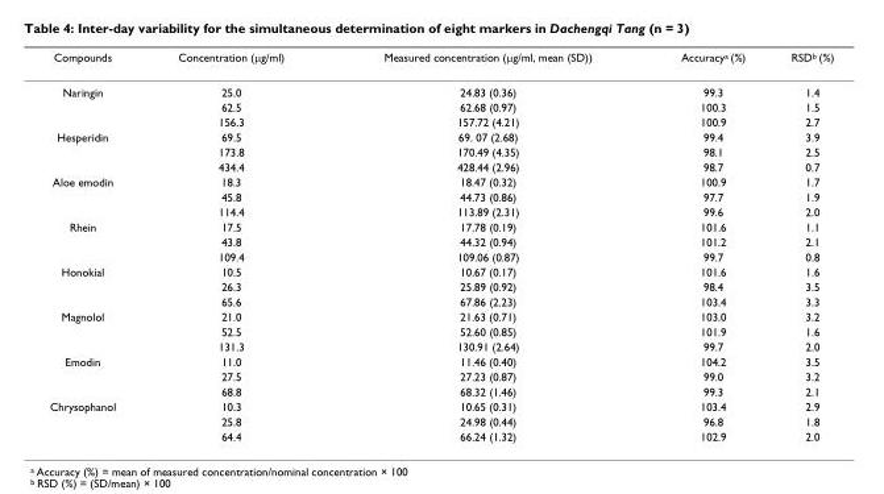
<table><thead><tr><td>Compounds</td><td>Concentration (µg/ml)</td><td>Measured concentration (µg/ml, mean (SD))</td><td>Accuracy<sup>a</sup> (%)</td><td>RSD<sup>b</sup> (%)</td></tr></thead><tbody><tr><td rowspan="3">Naringin</td><td>25.0</td><td>24.83 (0.36)</td><td>99.3</td><td>1.4</td></tr><tr><td>62.5</td><td>62.68 (0.97)</td><td>100.3</td><td>1.5</td></tr><tr><td>156.3</td><td>157.72 (4.21)</td><td>100.9</td><td>2.7</td></tr><tr><td rowspan="3">Hesperidin</td><td>69.5</td><td>69. 07 (2.68)</td><td>99.4</td><td>3.9</td></tr><tr><td>173.8</td><td>170.49 (4.35)</td><td>98.1</td><td>2.5</td></tr><tr><td>434.4</td><td>428.44 (2.96)</td><td>98.7</td><td>0.7</td></tr><tr><td rowspan="3">Aloe emodin</td><td>18.3</td><td>18.47 (0.32)</td><td>100.9</td><td>1.7</td></tr><tr><td>45.8</td><td>44.73 (0.86)</td><td>97.7</td><td>1.9</td></tr><tr><td>114.4</td><td>113.89 (2.31)</td><td>99.6</td><td>2.0</td></tr><tr><td rowspan="3">Rhein</td><td>17.5</td><td>17.78 (0.19)</td><td>101.6</td><td>1.1</td></tr><tr><td>43.8</td><td>44.32 (0.94)</td><td>101.2</td><td>2.1</td></tr><tr><td>109.4</td><td>109.06 (0.87)</td><td>99.7</td><td>0.8</td></tr><tr><td rowspan="3">Honokial</td><td>10.5</td><td>10.67 (0.17)</td><td>101.6</td><td>1.6</td></tr><tr><td>26.3</td><td>25.89 (0.92)</td><td>98.4</td><td>3.5</td></tr><tr><td>65.6</td><td>67.86 (2.23)</td><td>103.4</td><td>3.3</td></tr><tr><td rowspan="3">Magnolol</td><td>21.0</td><td>21.63 (0.71)</td><td>103.0</td><td>3.2</td></tr><tr><td>52.5</td><td>52.60 (0.85)</td><td>101.9</td><td>1.6</td></tr><tr><td>131.3</td><td>130.91 (2.64)</td><td>99.7</td><td>2.0</td></tr><tr><td rowspan="3">Emodin</td><td>11.0</td><td>11.46 (0.40)</td><td>104.2</td><td>3.5</td></tr><tr><td>27.5</td><td>27.23 (0.87)</td><td>99.0</td><td>3.2</td></tr><tr><td>68.8</td><td>68.32 (1.46)</td><td>99.3</td><td>2.1</td></tr><tr><td rowspan="3">Chrysophanol</td><td>10.3</td><td>10.65 (0.31)</td><td>103.4</td><td>2.9</td></tr><tr><td>25.8</td><td>24.98 (0.44)</td><td>96.8</td><td>1.8</td></tr><tr><td>64.4</td><td>66.24 (1.32)</td><td>102.9</td><td>2.0</td></tr></tbody></table>